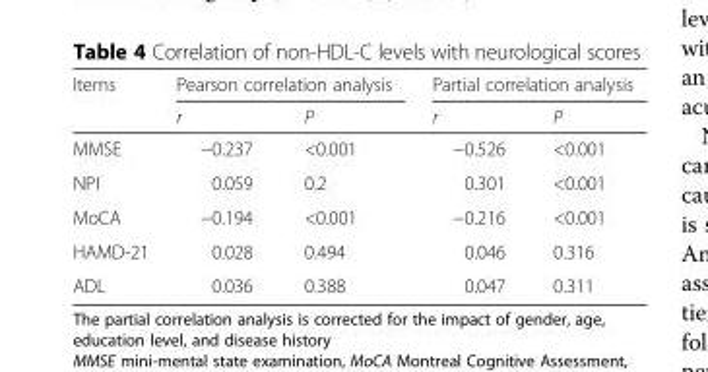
<table><thead><tr><td rowspan="2">Items</td><td colspan="2">Pearson correlation analysis</td><td colspan="2">Partial correlation analysis</td></tr><tr><td>r</td><td>P</td><td>r</td><td>P</td></tr></thead><tbody><tr><td>MMSE</td><td>−0.237</td><td>&lt;0.001</td><td>−0.526</td><td>&lt;0.001</td></tr><tr><td>NPI</td><td>0.059</td><td>0.2</td><td>0.301</td><td>&lt;0.001</td></tr><tr><td>MoCA</td><td>−0.194</td><td>&lt;0.001</td><td>−0.216</td><td>&lt;0.001</td></tr><tr><td>HAMD-21</td><td>0.028</td><td>0.494</td><td>0.046</td><td>0.316</td></tr><tr><td>ADL</td><td>0.036</td><td>0.388</td><td>0.047</td><td>0.311</td></tr></tbody></table>